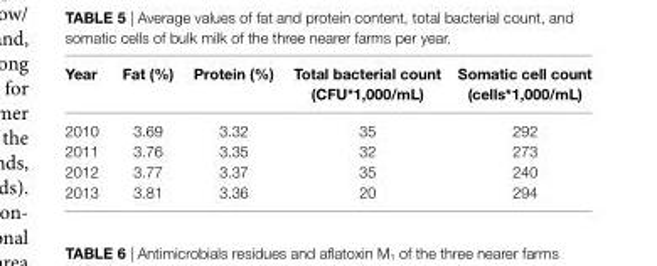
<table><thead><tr><td>Year</td><td>Fat (%)</td><td>Protein (%)</td><td>Total bacterial count (cFU*1,000/ml)</td><td>somatic cell count (cells*1,000/ml)</td></tr></thead><tbody><tr><td>2010</td><td>3.69</td><td>3.32</td><td>35</td><td>292</td></tr><tr><td>2011</td><td>3.76</td><td>3.35</td><td>32</td><td>273</td></tr><tr><td>2012</td><td>3.77</td><td>3.37</td><td>35</td><td>240</td></tr><tr><td>2013</td><td>3.81</td><td>3.36</td><td>20</td><td>294</td></tr></tbody></table>